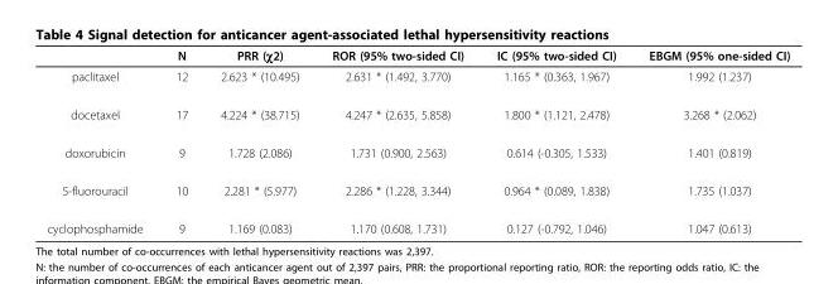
<table><thead><tr><td></td><td>N</td><td>PRR (χ2)</td><td>ROR (95% two-sided CI)</td><td>IC (95% two-sided CI)</td><td>EBGM (95% one-sided CI)</td></tr></thead><tbody><tr><td>paclitaxel</td><td>12</td><td>2.623 * (10.495)</td><td>2.631 * (1.492, 3.770)</td><td>1.165 * (0.363, 1.967)</td><td>1.992 (1.237)</td></tr><tr><td>docetaxel</td><td>17</td><td>4.224 * (38.715)</td><td>4.247 * (2.635, 5.858)</td><td>1.800 * (1.121, 2.478)</td><td>3.268 * (2.062)</td></tr><tr><td>doxorubicin</td><td>9</td><td>1.728 (2.086)</td><td>1.731 (0.900, 2.563)</td><td>0.614 (-0.305, 1.533)</td><td>1.401 (0.819)</td></tr><tr><td>5-fluorouracil</td><td>10</td><td>2.281 * (5.977)</td><td>2.286 * (1.228, 3.344)</td><td>0.964 * (0.089, 1.838)</td><td>1.735 (1.037)</td></tr><tr><td>cyclophosphamide</td><td>9</td><td>1.169 (0.083)</td><td>1.170 (0.608, 1.731)</td><td>0.127 (-0.792, 1.046)</td><td>1.047 (0.613)</td></tr></tbody></table>